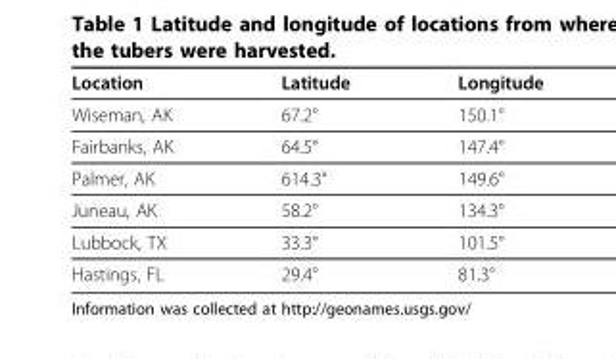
<table><thead><tr><td>Location</td><td>Latitude</td><td>Longitude</td></tr></thead><tbody><tr><td>Wiseman, AK</td><td>67.2°</td><td>150.1°</td></tr><tr><td>Fairbanks, AK</td><td>64.5°</td><td>147.4°</td></tr><tr><td>Palmer, AK</td><td>614.3°</td><td>149.6°</td></tr><tr><td>Juneau, AK</td><td>58.2°</td><td>134.3°</td></tr><tr><td>Lubbock, TX</td><td>33.3°</td><td>101.5°</td></tr><tr><td>Hastings, FL</td><td>29.4°</td><td>81.3°</td></tr></tbody></table>